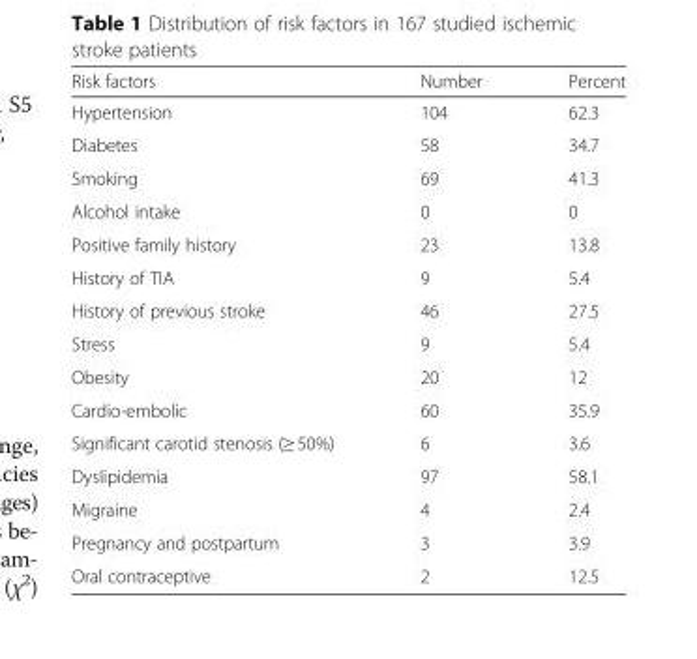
<table><thead><tr><td>Risk factors</td><td>Number</td><td>Percent</td></tr></thead><tbody><tr><td>Hypertension</td><td>104</td><td>62.3</td></tr><tr><td>Diabetes</td><td>58</td><td>34.7</td></tr><tr><td>Smoking</td><td>69</td><td>41.3</td></tr><tr><td>Alcohol intake</td><td>0</td><td>0</td></tr><tr><td>Positive family history</td><td>23</td><td>13.8</td></tr><tr><td>History of TIA</td><td>9</td><td>5.4</td></tr><tr><td>History of previous stroke</td><td>46</td><td>27.5</td></tr><tr><td>Stress</td><td>9</td><td>5.4</td></tr><tr><td>Obesity</td><td>20</td><td>12</td></tr><tr><td>Cardio-embolic</td><td>60</td><td>35.9</td></tr><tr><td>Significant carotid stenosis (≥ 50%)</td><td>6</td><td>3.6</td></tr><tr><td>Dyslipidemia</td><td>97</td><td>58.1</td></tr><tr><td>Migraine</td><td>4</td><td>2.4</td></tr><tr><td>Pregnancy and postpartum</td><td>3</td><td>3.9</td></tr><tr><td>Oral contraceptive</td><td>2</td><td>12.5</td></tr></tbody></table>